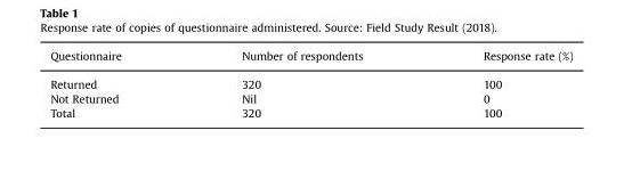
<table><thead><tr><td>Questionnaire</td><td>Number of respondents</td><td>Response rate (%)</td></tr></thead><tbody><tr><td>Returned</td><td>320</td><td>100</td></tr><tr><td>Not Returned</td><td>Nil</td><td>0</td></tr><tr><td>Total</td><td>320</td><td>100</td></tr></tbody></table>